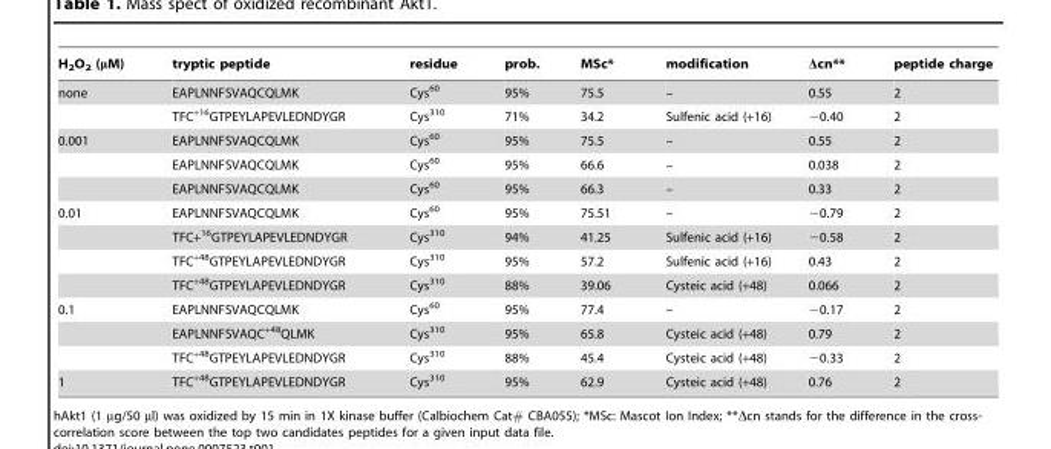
<table><thead><tr><td>H<sub>2</sub>O<sub>2</sub> (μM)</td><td>tryptic peptide</td><td>residue</td><td>prob.</td><td>MSc*</td><td>modification</td><td>Δcn**</td><td>peptide charge</td></tr></thead><tbody><tr><td rowspan="2">none</td><td>EAPLNNFSVAQCQLMK</td><td>Cys<sup>60</sup></td><td>95%</td><td>75.5</td><td>–</td><td>0.55</td><td>2</td></tr><tr><td>TFC<sup>+16</sup>GTPEYLAPEVLEDNDYGR</td><td>Cys<sup>310</sup></td><td>71%</td><td>34.2</td><td>Sulfenic acid (+16)</td><td>−0.40</td><td>2</td></tr><tr><td rowspan="3">0.001</td><td>EAPLNNFSVAQCQLMK</td><td>Cys<sup>60</sup></td><td>95%</td><td>75.5</td><td>–</td><td>0.55</td><td>2</td></tr><tr><td>EAPLNNFSVAQCQLMK</td><td>Cys<sup>60</sup></td><td>95%</td><td>66.6</td><td>–</td><td>0.038</td><td>2</td></tr><tr><td>EAPLNNFSVAQCQLMK</td><td>Cys<sup>60</sup></td><td>95%</td><td>66.3</td><td>–</td><td>0.33</td><td>2</td></tr><tr><td rowspan="4">0.01</td><td>EAPLNNFSVAQCQLMK</td><td>Cys<sup>60</sup></td><td>95%</td><td>75.51</td><td>–</td><td>−0.79</td><td>2</td></tr><tr><td>TFC+<sup>16</sup>GTPEYLAPEVLEDNDYGR</td><td>Cys<sup>310</sup></td><td>94%</td><td>41.25</td><td>Sulfenic acid (+16)</td><td>−0.58</td><td>2</td></tr><tr><td>TFC<sup>+48</sup>GTPEYLAPEVLEDNDYGR</td><td>Cys<sup>310</sup></td><td>95%</td><td>57.2</td><td>Sulfenic acid (+16)</td><td>0.43</td><td>2</td></tr><tr><td>TFC<sup>+48</sup>GTPEYLAPEVLEDNDYGR</td><td>Cys<sup>310</sup></td><td>88%</td><td>39.06</td><td>Cysteic acid (+48)</td><td>0.066</td><td>2</td></tr><tr><td rowspan="3">0.1</td><td>EAPLNNFSVAQCQLMK</td><td>Cys<sup>60</sup></td><td>95%</td><td>77.4</td><td>–</td><td>−0.17</td><td>2</td></tr><tr><td>EAPLNNFSVAQC<sup>+48</sup>QLMK</td><td>Cys<sup>310</sup></td><td>95%</td><td>65.8</td><td>Cysteic acid (+48)</td><td>0.79</td><td>2</td></tr><tr><td>TFC<sup>+48</sup>GTPEYLAPEVLEDNDYGR</td><td>Cys<sup>310</sup></td><td>88%</td><td>45.4</td><td>Cysteic acid (+48)</td><td>−0.33</td><td>2</td></tr><tr><td>1</td><td>TFC<sup>+48</sup>GTPEYLAPEVLEDNDYGR</td><td>Cys<sup>310</sup></td><td>95%</td><td>62.9</td><td>Cysteic acid (+48)</td><td>0.76</td><td>2</td></tr></tbody></table>